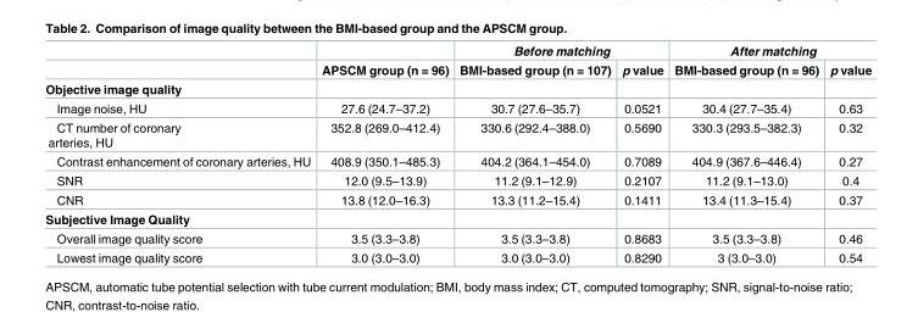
<table><thead><tr><td rowspan="2"></td><td rowspan="2">APSCM group (n = 96)</td><td colspan="2">Before matching</td><td colspan="2">After matching</td></tr><tr><td>BMI-based group (n = 107)</td><td>p value</td><td>BMI-based group (n = 96)</td><td>p value</td></tr></thead><tbody><tr><td colspan="6">Objective image quality</td></tr><tr><td>Image noise, HU</td><td>27.6 (24.7–37.2)</td><td>30.7 (27.6–35.7)</td><td>0.0521</td><td>30.4 (27.7–35.4)</td><td>0.63</td></tr><tr><td>CT number of coronary arteries, HU</td><td>352.8 (269.0–412.4)</td><td>330.6 (292.4–388.0)</td><td>0.5690</td><td>330.3 (293.5–382.3)</td><td>0.32</td></tr><tr><td>Contrast enhancement of coronary arteries, HU</td><td>408.9 (350.1–485.3)</td><td>404.2 (364.1–454.0)</td><td>0.7089</td><td>404.9 (367.6–446.4)</td><td>0.27</td></tr><tr><td>SNR</td><td>12.0 (9.5–13.9)</td><td>11.2 (9.1–12.9)</td><td>0.2107</td><td>11.2 (9.1–13.0)</td><td>0.4</td></tr><tr><td>CNR</td><td>13.8 (12.0–16.3)</td><td>13.3 (11.2–15.4)</td><td>0.1411</td><td>13.4 (11.3–15.4)</td><td>0.37</td></tr><tr><td colspan="6">Subjective Image Quality</td></tr><tr><td>Overall image quality score</td><td>3.5 (3.3–3.8)</td><td>3.5 (3.3–3.8)</td><td>0.8683</td><td>3.5 (3.3–3.8)</td><td>0.46</td></tr><tr><td>Lowest image quality score</td><td>3.0 (3.0–3.0)</td><td>3.0 (3.0–3.0)</td><td>0.8290</td><td>3 (3.0–3.0)</td><td>0.54</td></tr></tbody></table>